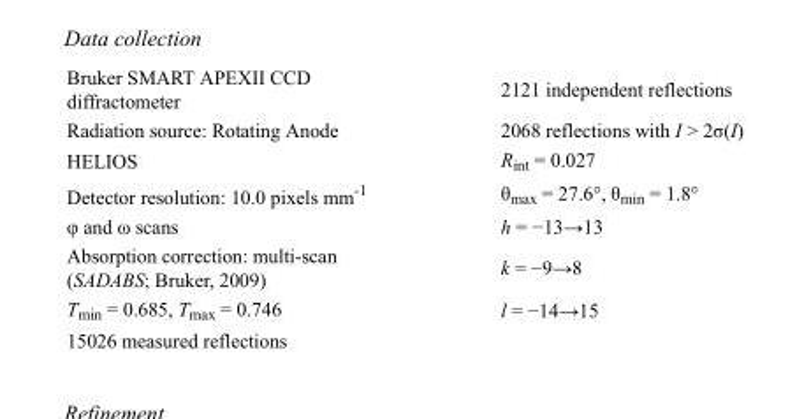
<table><tbody><tr><td>Bruker SMART APEXII CCD diffractometer</td><td>2121 independent reflections</td></tr><tr><td>Radiation source: Rotating Anode</td><td>2068 reflections with I &gt; 2σ(I)</td></tr><tr><td>HELIOS</td><td>R<sub>int</sub> = 0.027</td></tr><tr><td>Detector resolution: 10.0 pixels mm<sup>-1</sup></td><td>θ<sub>max</sub> = 27.6°, θ<sub>min</sub> = 1.8°</td></tr><tr><td>φ and ω scans</td><td>h = −13→13</td></tr><tr><td>Absorption correction: multi-scan (SADABS; Bruker, 2009)</td><td>k = −9→8</td></tr><tr><td>T<sub>min</sub> = 0.685, T<sub>max</sub> = 0.746</td><td>l = −14→15</td></tr><tr><td>15026 measured reflections</td><td></td></tr></tbody></table>